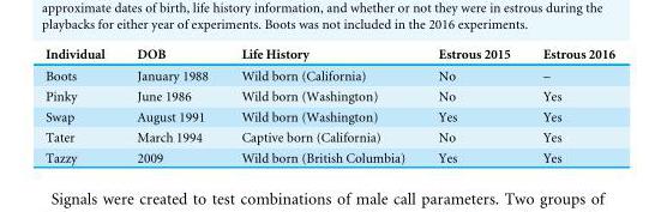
<table><thead><tr><td>Individual</td><td>DOB</td><td>Life History</td><td>Estrous 2015</td><td>Estrous 2016</td></tr></thead><tbody><tr><td>Boots</td><td>January 1988</td><td>Wild born (California)</td><td>No</td><td>–</td></tr><tr><td>Pinky</td><td>June 1986</td><td>Wild born (Washington)</td><td>No</td><td>Yes</td></tr><tr><td>Swap</td><td>August 1991</td><td>Wild born (Washington)</td><td>Yes</td><td>Yes</td></tr><tr><td>Tater</td><td>March 1994</td><td>Captive born (California)</td><td>No</td><td>Yes</td></tr><tr><td>Tazzy</td><td>2009</td><td>Wild born (British Columbia)</td><td>Yes</td><td>Yes</td></tr></tbody></table>